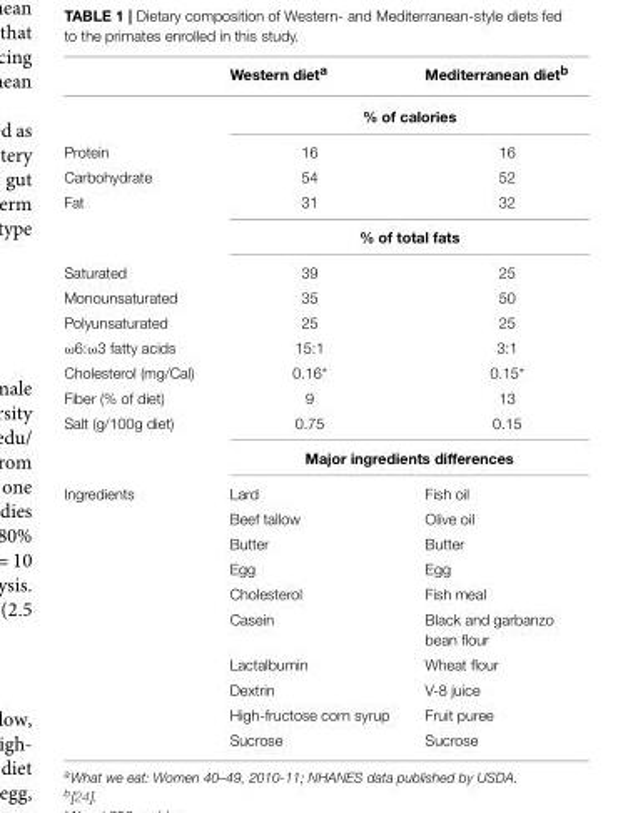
<table><thead><tr><td></td><td>Western diet<sup>a</sup></td><td>Mediterranean diet<sup>b</sup></td></tr></thead><tbody><tr><td></td><td colspan="2">% of calories</td></tr><tr><td>Protein</td><td>16</td><td>16</td></tr><tr><td>Carbohydrate</td><td>54</td><td>52</td></tr><tr><td rowspan="2">Fat</td><td>31</td><td>32</td></tr><tr><td colspan="2">% of total fats</td></tr><tr><td>Saturated</td><td>39</td><td>25</td></tr><tr><td>Monounsaturated</td><td>35</td><td>50</td></tr><tr><td>Polyunsaturated</td><td>25</td><td>25</td></tr><tr><td>ω6:ω3 fatty acids</td><td>15:1</td><td>3:1</td></tr><tr><td>Cholesterol (mg/Cal)</td><td>0.16*</td><td>0.15*</td></tr><tr><td>Fiber (% of diet)</td><td>9</td><td>13</td></tr><tr><td rowspan="2">Salt (g/100g diet)</td><td>0.75</td><td>0.15</td></tr><tr><td colspan="2">Major ingredients differences</td></tr><tr><td rowspan="10">Ingredients</td><td>Lard</td><td>Fish oil</td></tr><tr><td>Beef tallow</td><td>Olive oil</td></tr><tr><td>Butter</td><td>Butter</td></tr><tr><td>Egg</td><td>Egg</td></tr><tr><td>Cholesterol</td><td>Fish meal</td></tr><tr><td>Casein</td><td>Black and garbanzo bean flour</td></tr><tr><td>Lactalbumin</td><td>Wheat flour</td></tr><tr><td>Dextrin</td><td>V-8 juice</td></tr><tr><td>High-fructose corn syrup</td><td>Fruit puree</td></tr><tr><td>Sucrose</td><td>Sucrose</td></tr></tbody></table>